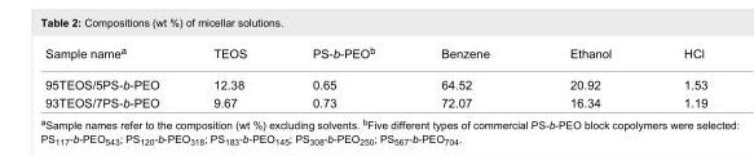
<table><tbody><tr><td>Sample name<sup>a</sup></td><td>TEOS</td><td>PS-b-PEO<sup>b</sup></td><td>Benzene</td><td>Ethanol</td><td>HCl</td></tr><tr><td>95TEOS/5PS-b-PEO</td><td>12.38</td><td>0.65</td><td>64.52</td><td>20.92</td><td>1.53</td></tr><tr><td>93TEOS/7PS-b-PEO</td><td>9.67</td><td>0.73</td><td>72.07</td><td>16.34</td><td>1.19</td></tr></tbody></table>